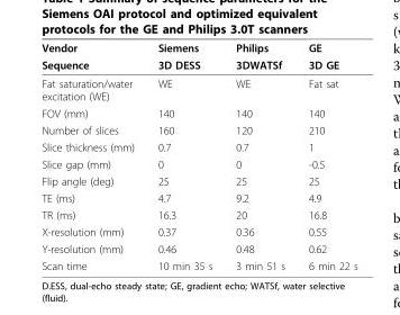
<table><thead><tr><td rowspan="2">Vendor Sequence</td><td rowspan="2">Siemens 3D DESS</td><td rowspan="2">Philips 3DWATSf</td><td rowspan="2">GE 3D GE</td></tr><tr></tr></thead><tbody><tr><td>Fat saturation/water excitation (WE)</td><td>WE</td><td>WE</td><td>Fat sat</td></tr><tr><td>FOV (mm)</td><td>140</td><td>140</td><td>140</td></tr><tr><td>Number of slices</td><td>160</td><td>120</td><td>210</td></tr><tr><td>Slice thickness (mm)</td><td>0.7</td><td>0.7</td><td>1</td></tr><tr><td>Slice gap (mm)</td><td>0</td><td>0</td><td>-0.5</td></tr><tr><td>Flip angle (deg)</td><td>25</td><td>25</td><td>25</td></tr><tr><td>TE (ms)</td><td>4.7</td><td>9.2</td><td>4.9</td></tr><tr><td>TR (ms)</td><td>16.3</td><td>20</td><td>16.8</td></tr><tr><td>X-resolution (mm)</td><td>0.37</td><td>0.36</td><td>0.55</td></tr><tr><td>Y-resolution (mm)</td><td>0.46</td><td>0.48</td><td>0.62</td></tr><tr><td>Scan time</td><td>10 min 35 s</td><td>3 min 51 s</td><td>6 min 22 s</td></tr></tbody></table>